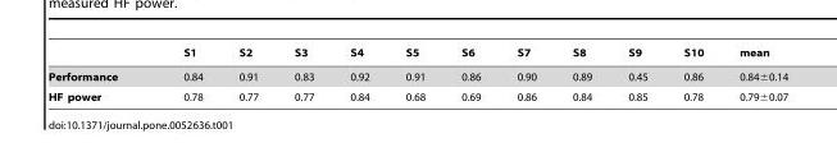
<table><thead><tr><td></td><td>S1</td><td>S2</td><td>S3</td><td>S4</td><td>S5</td><td>S6</td><td>S7</td><td>S8</td><td>S9</td><td>S10</td><td>mean</td></tr></thead><tbody><tr><td>Performance</td><td>0.84</td><td>0.91</td><td>0.83</td><td>0.92</td><td>0.91</td><td>0.86</td><td>0.90</td><td>0.89</td><td>0.45</td><td>0.86</td><td>0.84±0.14</td></tr><tr><td>HF power</td><td>0.78</td><td>0.77</td><td>0.77</td><td>0.84</td><td>0.68</td><td>0.69</td><td>0.86</td><td>0.84</td><td>0.85</td><td>0.78</td><td>0.79±0.07</td></tr></tbody></table>